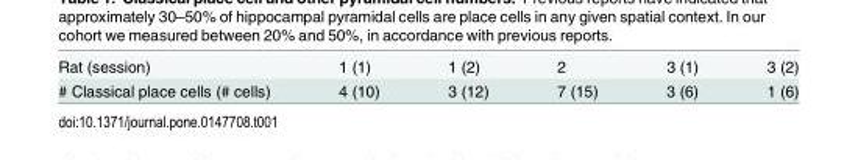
<table><tbody><tr><td>Rat (session)</td><td>1 (1)</td><td>1 (2)</td><td>2</td><td>3 (1)</td><td>3 (2)</td></tr><tr><td># Classical place cells (# cells)</td><td>4 (10)</td><td>3 (12)</td><td>7 (15)</td><td>3 (6)</td><td>1 (6)</td></tr></tbody></table>